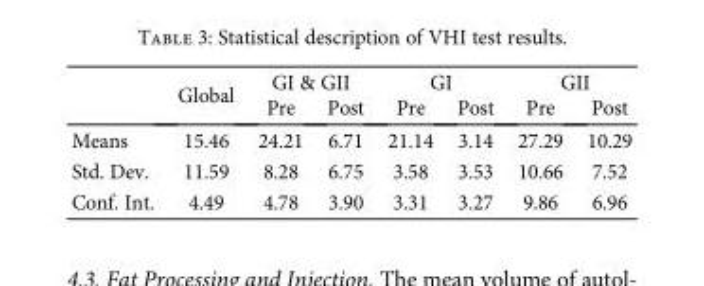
<table><thead><tr><td rowspan="2"></td><td rowspan="2">Global</td><td colspan="2">GI &amp; GII</td><td colspan="2">GI</td><td colspan="2">GII</td></tr><tr><td>Pre</td><td>Post</td><td>Pre</td><td>Post</td><td>Pre</td><td>Post</td></tr></thead><tbody><tr><td>Means</td><td>15.46</td><td>24.21</td><td>6.71</td><td>21.14</td><td>3.14</td><td>27.29</td><td>10.29</td></tr><tr><td>Std. Dev.</td><td>11.59</td><td>8.28</td><td>6.75</td><td>3.58</td><td>3.53</td><td>10.66</td><td>7.52</td></tr><tr><td>Conf. Int.</td><td>4.49</td><td>4.78</td><td>3.90</td><td>3.31</td><td>3.27</td><td>9.86</td><td>6.96</td></tr></tbody></table>